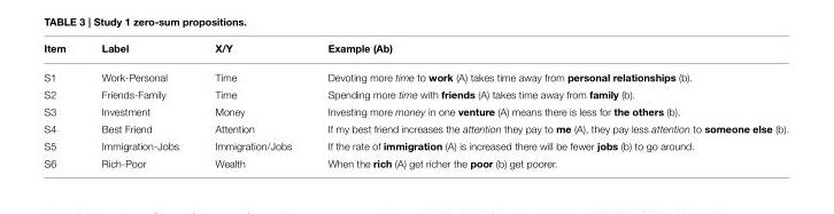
<table><thead><tr><td>Item</td><td>Label</td><td>X/Y</td><td>Example (Ab)</td></tr></thead><tbody><tr><td>S1</td><td>Work-Personal</td><td>Time</td><td>Devoting more time to work (A) takes time away from personal relationships (b).</td></tr><tr><td>S2</td><td>Friends-Family</td><td>Time</td><td>Spending more time with friends (A) takes time away from family (b).</td></tr><tr><td>S3</td><td>Investment</td><td>Money</td><td>Investing more money in one venture (A) means there is less for the others (b).</td></tr><tr><td>S4</td><td>Best Friend</td><td>Attention</td><td>If my best friend increases the attention they pay to me (A), they pay less attention to someone else (b).</td></tr><tr><td>S5</td><td>Immigration-Jobs</td><td>Immigration/Jobs</td><td>If the rate of immigration (A) is increased there will be fewer jobs (b) to go around.</td></tr><tr><td>S6</td><td>Rich-Poor</td><td>Wealth</td><td>When the rich (A) get richer the poor (b) get poorer.</td></tr></tbody></table>